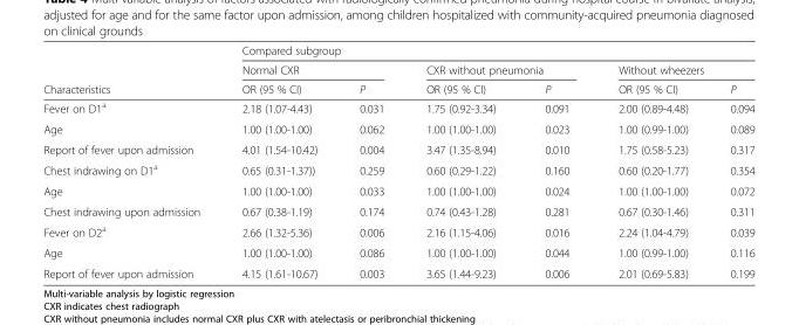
<table><thead><tr><td rowspan="3">Characteristics</td><td colspan="6">Compared subgroup</td></tr><tr><td colspan="2">Normal CXR</td><td colspan="2">CXR without pneumonia</td><td colspan="2">Without wheezers</td></tr><tr><td>OR (95 % CI)</td><td>P</td><td>OR (95 % CI)</td><td>P</td><td>OR (95 % CI)</td><td>P</td></tr></thead><tbody><tr><td>Fever on D1<sup>a</sup></td><td>2.18 (1.07-4.43)</td><td>0.031</td><td>1.75 (0.92-3.34)</td><td>0.091</td><td>2.00 (0.89-4.48)</td><td>0.094</td></tr><tr><td>Age</td><td>1.00 (1.00-1.00)</td><td>0.062</td><td>1.00 (1.00-1.00)</td><td>0.023</td><td>1.00 (0.99-1.00)</td><td>0.089</td></tr><tr><td>Report of fever upon admission</td><td>4.01 (1.54-10.42)</td><td>0.004</td><td>3.47 (1.35-8.94)</td><td>0.010</td><td>1.75 (0.58-5.23)</td><td>0.317</td></tr><tr><td>Chest indrawing on D1<sup>a</sup></td><td>0.65 (0.31-1.37))</td><td>0.259</td><td>0.60 (0.29-1.22)</td><td>0.160</td><td>0.60 (0.20-1.77)</td><td>0.354</td></tr><tr><td>Age</td><td>1.00 (1.00-1.00)</td><td>0.033</td><td>1.00 (1.00-1.00)</td><td>0.024</td><td>1.00 (1.00-1.00)</td><td>0.072</td></tr><tr><td>Chest indrawing upon admission</td><td>0.67 (0.38-1.19)</td><td>0.174</td><td>0.74 (0.43-1.28)</td><td>0.281</td><td>0.67 (0.30-1.46)</td><td>0.311</td></tr><tr><td>Fever on D2<sup>a</sup></td><td>2.66 (1.32-5.36)</td><td>0.006</td><td>2.16 (1.15-4.06)</td><td>0.016</td><td>2.24 (1.04-4.79)</td><td>0.039</td></tr><tr><td>Age</td><td>1.00 (1.00-1.00)</td><td>0.086</td><td>1.00 (1.00-1.00)</td><td>0.044</td><td>1.00 (0.99-1.00)</td><td>0.116</td></tr><tr><td>Report of fever upon admission</td><td>4.15 (1.61-10.67)</td><td>0.003</td><td>3.65 (1.44-9.23)</td><td>0.006</td><td>2.01 (0.69-5.83)</td><td>0.199</td></tr></tbody></table>